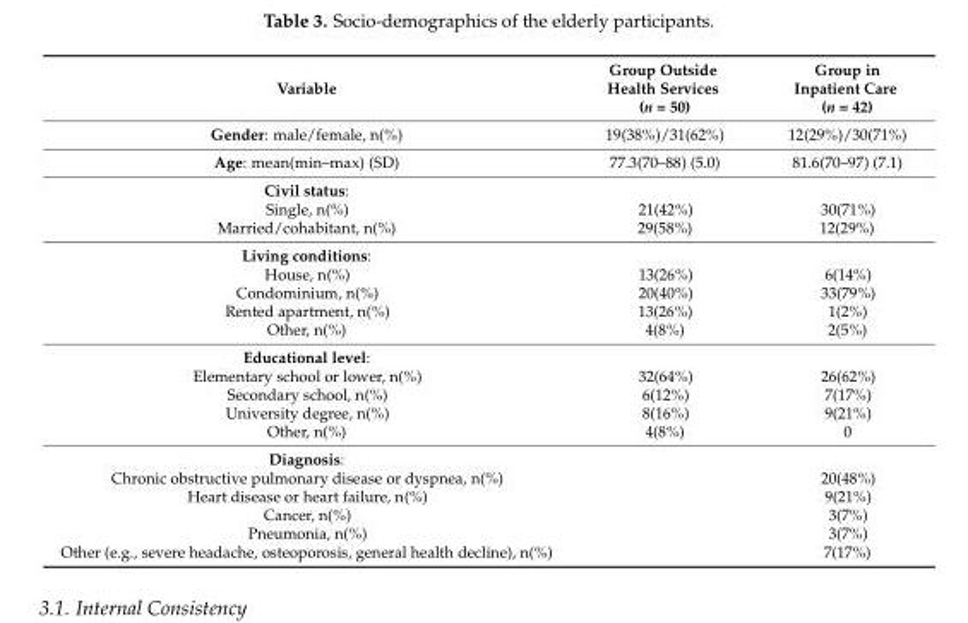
<table><thead><tr><td>Variable</td><td>Group Outside Health Services (n = 50)</td><td>Group in Inpatient Care (n = 42)</td></tr></thead><tbody><tr><td>Gender: male/female, n(%)</td><td>19(38%)/31(62%)</td><td>12(29%)/30(71%)</td></tr><tr><td>Age: mean(min–max) (SD)</td><td>77.3(70–88) (5.0)</td><td>81.6(70–97) (7.1)</td></tr><tr><td>Civil status: Single, n(%) Married/cohabitant, n(%)</td><td>21(42%) 29(58%)</td><td>30(71%) 12(29%)</td></tr><tr><td>Living conditions: House, n(%) Condominium, n(%) Rented apartment, n(%) Other, n(%)</td><td>13(26%) 20(40%) 13(26%) 4(8%)</td><td>6(14%) 33(79%) 1(2%) 2(5%)</td></tr><tr><td>Educational level: Elementary school or lower, n(%) Secondary school, n(%) University degree, n(%) Other, n(%)</td><td>32(64%) 6(12%) 8(16%) 4(8%)</td><td>26(62%) 7(17%) 9(21%) 0</td></tr><tr><td>Diagnosis: Chronic obstructive pulmonary disease or dyspnea, n(%) Heart disease or heart failure, n(%) Cancer, n(%) Pneumonia, n(%) Other (e.g., severe headache, osteoporosis, general health decline), n(%)</td><td></td><td>20(48%) 9(21%) 3(7%) 3(7%) 7(17%)</td></tr></tbody></table>